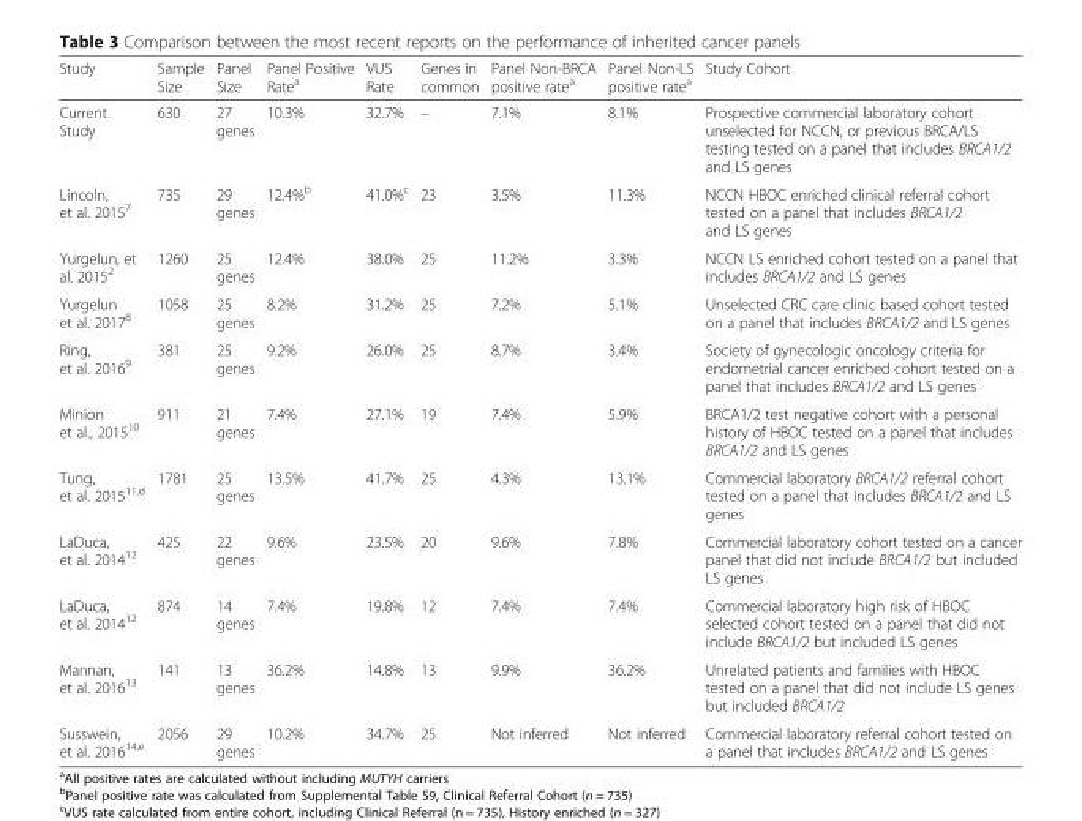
<table><thead><tr><td>Study</td><td>Sample Size</td><td>Panel Size</td><td>Panel Positive Rate<sup>a</sup></td><td>VUS Rate</td><td>Genes in common</td><td>Panel Non-BRCA positive rate<sup>a</sup></td><td>Panel Non-LS positive rate<sup>a</sup></td><td>Study Cohort</td></tr></thead><tbody><tr><td>Current Study</td><td>630</td><td>27 genes</td><td>10.3%</td><td>32.7%</td><td>–</td><td>7.1%</td><td>8.1%</td><td>Prospective commercial laboratory cohort unselected for NCCN, or previous BRCA/LS testing tested on a panel that includes BRCA1/2 and LS genes</td></tr><tr><td>Lincoln, et al. 2015<sup>7</sup></td><td>735</td><td>29 genes</td><td>12.4%<sup>b</sup></td><td>41.0%<sup>c</sup></td><td>23</td><td>3.5%</td><td>11.3%</td><td>NCCN HBOC enriched clinical referral cohort tested on a panel that includes BRCA1/2 and LS genes</td></tr><tr><td>Yurgelun, et al. 2015<sup>2</sup></td><td>1260</td><td>25 genes</td><td>12.4%</td><td>38.0%</td><td>25</td><td>11.2%</td><td>3.3%</td><td>NCCN LS enriched cohort tested on a panel that includes BRCA1/2 and LS genes</td></tr><tr><td>Yurgelun et al. 2017<sup>8</sup></td><td>1058</td><td>25 genes</td><td>8.2%</td><td>31.2%</td><td>25</td><td>7.2%</td><td>5.1%</td><td>Unselected CRC care clinic based cohort tested on a panel that includes BRCA1/2 and LS genes</td></tr><tr><td>Ring, et al. 2016<sup>9</sup></td><td>381</td><td>25 genes</td><td>9.2%</td><td>26.0%</td><td>25</td><td>8.7%</td><td>3.4%</td><td>Society of gynecologic oncology criteria for endometrial cancer enriched cohort tested on a panel that includes BRCA1/2 and LS genes</td></tr><tr><td>Minion et al., 2015<sup>10</sup></td><td>911</td><td>21 genes</td><td>7.4%</td><td>27.1%</td><td>19</td><td>7.4%</td><td>5.9%</td><td>BRCA1/2 test negative cohort with a personal history of HBOC tested on a panel that includes BRCA1/2 and LS genes</td></tr><tr><td>Tung, et al. 2015<sup>11,d</sup></td><td>1781</td><td>25 genes</td><td>13.5%</td><td>41.7%</td><td>25</td><td>4.3%</td><td>13.1%</td><td>Commercial laboratory BRCA1/2 referral cohort tested on a panel that includes BRCA1/2 and LS genes</td></tr><tr><td>LaDuca, et al. 2014<sup>12</sup></td><td>425</td><td>22 genes</td><td>9.6%</td><td>23.5%</td><td>20</td><td>9.6%</td><td>7.8%</td><td>Commercial laboratory cohort tested on a cancer panel that did not include BRCA1/2 but included LS genes</td></tr><tr><td>LaDuca, et al. 2014<sup>12</sup></td><td>874</td><td>14 genes</td><td>7.4%</td><td>19.8%</td><td>12</td><td>7.4%</td><td>7.4%</td><td>Commercial laboratory high risk of HBOC selected cohort tested on a panel that did not include BRCA1/2 but included LS genes</td></tr><tr><td>Mannan, et al. 2016<sup>13</sup></td><td>141</td><td>13 genes</td><td>36.2%</td><td>14.8%</td><td>13</td><td>9.9%</td><td>36.2%</td><td>Unrelated patients and families with HBOC tested on a panel that did not include LS genes but included BRCA1/2</td></tr><tr><td>Susswein, et al. 2016<sup>14,e</sup></td><td>2056</td><td>29 genes</td><td>10.2%</td><td>34.7%</td><td>25</td><td>Not inferred</td><td>Not inferred</td><td>Commercial laboratory referral cohort tested on a panel that includes BRCA1/2 and LS genes</td></tr></tbody></table>